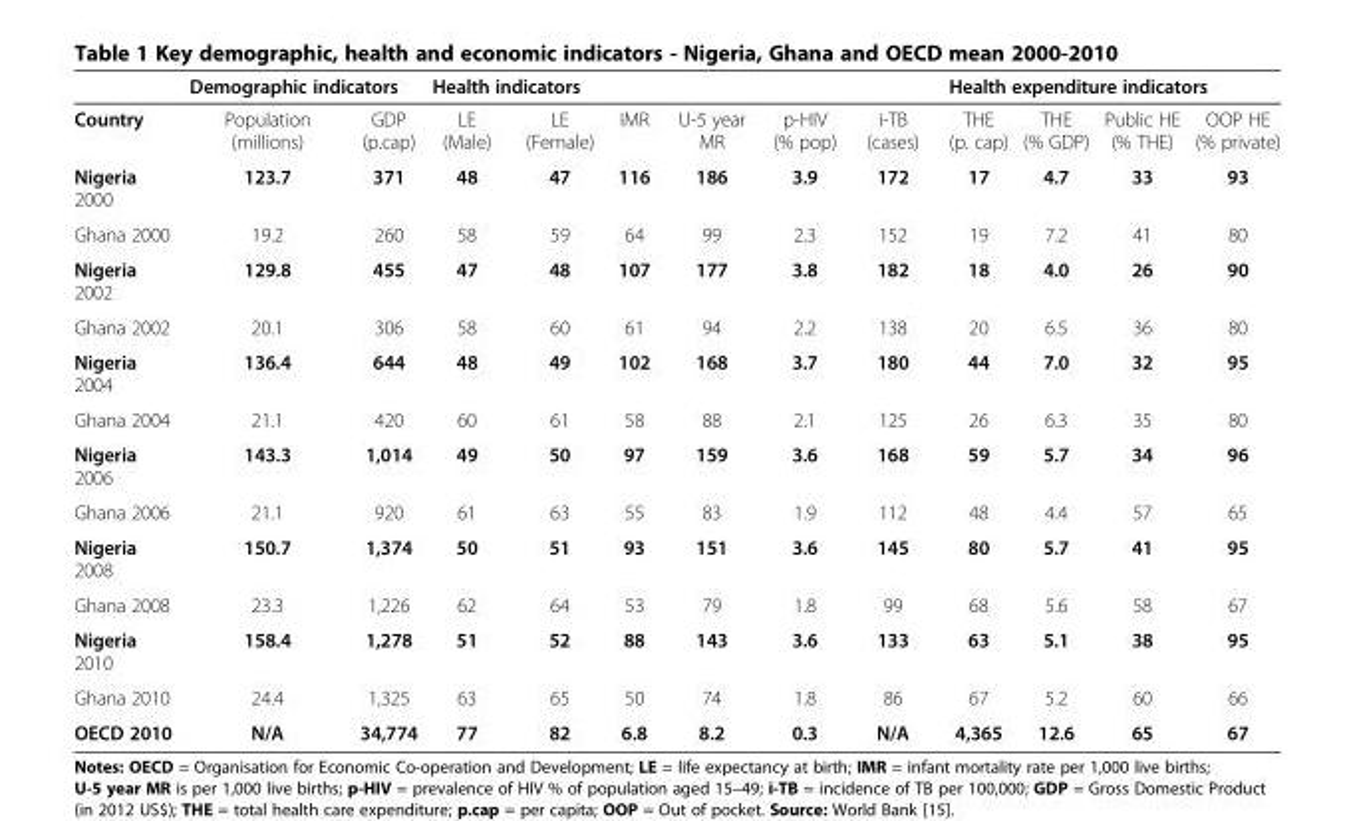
<table><thead><tr><td rowspan="2">Country</td><td colspan="2">Demographic indicators</td><td colspan="6">Health indicators</td><td colspan="4">Health expenditure indicators</td></tr><tr><td>Population (millions)</td><td>GDP (p.cap)</td><td>LE (Male)</td><td>LE (Female)</td><td>IMR</td><td>U-5 year MR</td><td>p-HIV (% pop)</td><td>i-TB (cases)</td><td>THE (p. cap)</td><td>THE (% GDP)</td><td>Public HE (% THE)</td><td>OOP HE (% private)</td></tr></thead><tbody><tr><td>Nigeria 2000</td><td>123.7</td><td>371</td><td>48</td><td>47</td><td>116</td><td>186</td><td>3.9</td><td>172</td><td>17</td><td>4.7</td><td>33</td><td>93</td></tr><tr><td>Ghana 2000</td><td>19.2</td><td>260</td><td>58</td><td>59</td><td>64</td><td>99</td><td>2.3</td><td>152</td><td>19</td><td>7.2</td><td>41</td><td>80</td></tr><tr><td>Nigeria 2002</td><td>129.8</td><td>455</td><td>47</td><td>48</td><td>107</td><td>177</td><td>3.8</td><td>182</td><td>18</td><td>4.0</td><td>26</td><td>90</td></tr><tr><td>Ghana 2002</td><td>20.1</td><td>306</td><td>58</td><td>60</td><td>61</td><td>94</td><td>2.2</td><td>138</td><td>20</td><td>6.5</td><td>36</td><td>80</td></tr><tr><td>Nigeria 2004</td><td>136.4</td><td>644</td><td>48</td><td>49</td><td>102</td><td>168</td><td>3.7</td><td>180</td><td>44</td><td>7.0</td><td>32</td><td>95</td></tr><tr><td>Ghana 2004</td><td>21.1</td><td>420</td><td>60</td><td>61</td><td>58</td><td>88</td><td>2.1</td><td>125</td><td>26</td><td>6.3</td><td>35</td><td>80</td></tr><tr><td>Nigeria 2006</td><td>143.3</td><td>1,014</td><td>49</td><td>50</td><td>97</td><td>159</td><td>3.6</td><td>168</td><td>59</td><td>5.7</td><td>34</td><td>96</td></tr><tr><td>Ghana 2006</td><td>21.1</td><td>920</td><td>61</td><td>63</td><td>55</td><td>83</td><td>1.9</td><td>112</td><td>48</td><td>4.4</td><td>57</td><td>65</td></tr><tr><td>Nigeria 2008</td><td>150.7</td><td>1,374</td><td>50</td><td>51</td><td>93</td><td>151</td><td>3.6</td><td>145</td><td>80</td><td>5.7</td><td>41</td><td>95</td></tr><tr><td>Ghana 2008</td><td>23.3</td><td>1,226</td><td>62</td><td>64</td><td>53</td><td>79</td><td>1.8</td><td>99</td><td>68</td><td>5.6</td><td>58</td><td>67</td></tr><tr><td>Nigeria 2010</td><td>158.4</td><td>1,278</td><td>51</td><td>52</td><td>88</td><td>143</td><td>3.6</td><td>133</td><td>63</td><td>5.1</td><td>38</td><td>95</td></tr><tr><td>Ghana 2010</td><td>24.4</td><td>1,325</td><td>63</td><td>65</td><td>50</td><td>74</td><td>1.8</td><td>86</td><td>67</td><td>5.2</td><td>60</td><td>66</td></tr><tr><td>OECD 2010</td><td>N/A</td><td>34,774</td><td>77</td><td>82</td><td>6.8</td><td>8.2</td><td>0.3</td><td>N/A</td><td>4,365</td><td>12.6</td><td>65</td><td>67</td></tr></tbody></table>